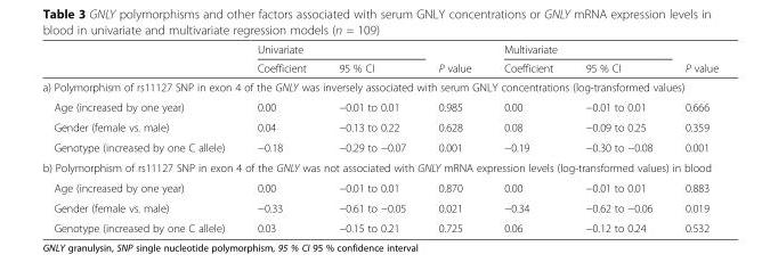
<table><thead><tr><td rowspan="2"></td><td colspan="2">Univariate</td><td rowspan="2">P value</td><td colspan="2">Multivariate</td><td rowspan="2">P value</td></tr><tr><td>Coefficient</td><td>95 % CI</td><td>Coefficient</td><td>95 % CI</td></tr></thead><tbody><tr><td colspan="7">a) Polymorphism of rs11127 SNP in exon 4 of the GNLY was inversely associated with serum GNLY concentrations (log-transformed values)</td></tr><tr><td>Age (increased by one year)</td><td>0.00</td><td>−0.01 to 0.01</td><td>0.985</td><td>0.00</td><td>−0.01 to 0.01</td><td>0.666</td></tr><tr><td>Gender (female vs. male)</td><td>0.04</td><td>−0.13 to 0.22</td><td>0.628</td><td>0.08</td><td>−0.09 to 0.25</td><td>0.359</td></tr><tr><td>Genotype (increased by one C allele)</td><td>−0.18</td><td>−0.29 to −0.07</td><td>0.001</td><td>−0.19</td><td>−0.30 to −0.08</td><td>0.001</td></tr><tr><td colspan="7">b) Polymorphism of rs11127 SNP in exon 4 of the GNLY was not associated with GNLY mRNA expression levels (log-transformed values) in blood</td></tr><tr><td>Age (increased by one year)</td><td>0.00</td><td>−0.01 to 0.01</td><td>0.870</td><td>0.00</td><td>−0.01 to 0.01</td><td>0.883</td></tr><tr><td>Gender (female vs. male)</td><td>−0.33</td><td>−0.61 to −0.05</td><td>0.021</td><td>−0.34</td><td>−0.62 to −0.06</td><td>0.019</td></tr><tr><td>Genotype (increased by one C allele)</td><td>0.03</td><td>−0.15 to 0.21</td><td>0.725</td><td>0.06</td><td>−0.12 to 0.24</td><td>0.532</td></tr></tbody></table>